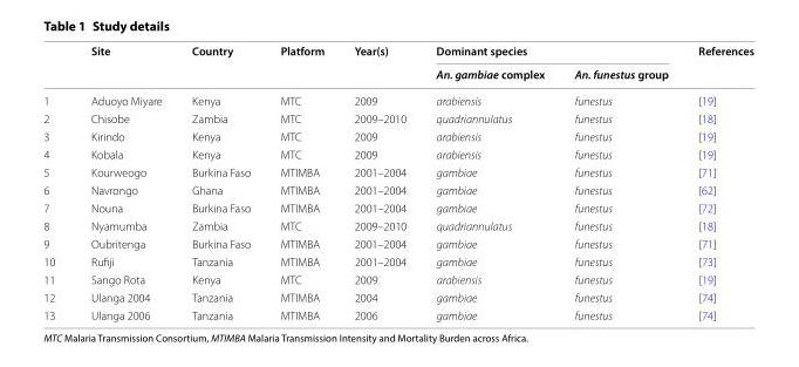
<table><thead><tr><td rowspan="2"></td><td rowspan="2">Site</td><td rowspan="2">Country</td><td rowspan="2">Platform</td><td rowspan="2">Year(s)</td><td colspan="2">Dominant species</td><td rowspan="2">References</td></tr><tr><td>An. gambiae complex</td><td>An. funestus group</td></tr></thead><tbody><tr><td>1</td><td>Aduoyo Miyare</td><td>Kenya</td><td>MTC</td><td>2009</td><td>arabiensis</td><td>funestus</td><td>[19]</td></tr><tr><td>2</td><td>Chisobe</td><td>Zambia</td><td>MTC</td><td>2009–2010</td><td>quadriannulatus</td><td>funestus</td><td>[18]</td></tr><tr><td>3</td><td>Kirindo</td><td>Kenya</td><td>MTC</td><td>2009</td><td>arabiensis</td><td>funestus</td><td>[19]</td></tr><tr><td>4</td><td>Kobala</td><td>Kenya</td><td>MTC</td><td>2009</td><td>arabiensis</td><td>funestus</td><td>[19]</td></tr><tr><td>5</td><td>Kourweogo</td><td>Burkina Faso</td><td>MTIMBA</td><td>2001–2004</td><td>gambiae</td><td>funestus</td><td>[71]</td></tr><tr><td>6</td><td>Navrongo</td><td>Ghana</td><td>MTIMBA</td><td>2001–2004</td><td>gambiae</td><td>funestus</td><td>[62]</td></tr><tr><td>7</td><td>Nouna</td><td>Burkina Faso</td><td>MTIMBA</td><td>2001–2004</td><td>gambiae</td><td>funestus</td><td>[72]</td></tr><tr><td>8</td><td>Nyamumba</td><td>Zambia</td><td>MTC</td><td>2009–2010</td><td>quadriannulatus</td><td>funestus</td><td>[18]</td></tr><tr><td>9</td><td>Oubritenga</td><td>Burkina Faso</td><td>MTIMBA</td><td>2001–2004</td><td>gambiae</td><td>funestus</td><td>[71]</td></tr><tr><td>10</td><td>Rufiji</td><td>Tanzania</td><td>MTIMBA</td><td>2001–2004</td><td>gambiae</td><td>funestus</td><td>[73]</td></tr><tr><td>11</td><td>Sango Rota</td><td>Kenya</td><td>MTC</td><td>2009</td><td>arabiensis</td><td>funestus</td><td>[19]</td></tr><tr><td>12</td><td>Ulanga 2004</td><td>Tanzania</td><td>MTIMBA</td><td>2004</td><td>gambiae</td><td>funestus</td><td>[74]</td></tr><tr><td>13</td><td>Ulanga 2006</td><td>Tanzania</td><td>MTIMBA</td><td>2006</td><td>gambiae</td><td>funestus</td><td>[74]</td></tr></tbody></table>